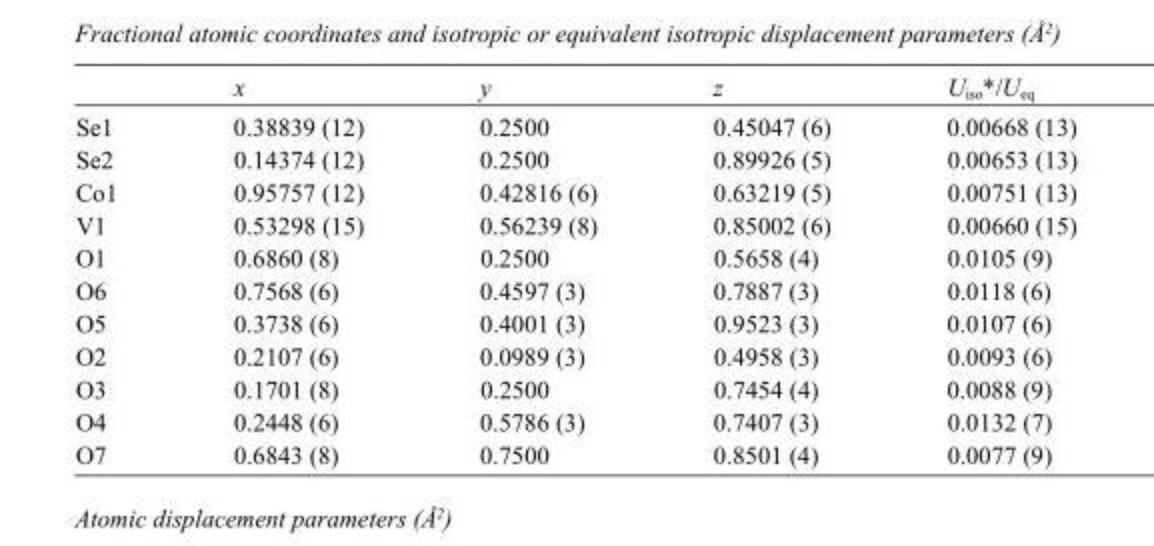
<table><thead><tr><td></td><td>x</td><td>y</td><td>z</td><td>U<sub>iso</sub>*/U<sub>eq</sub></td></tr></thead><tbody><tr><td>Se1</td><td>0.38839 (12)</td><td>0.2500</td><td>0.45047 (6)</td><td>0.00668 (13)</td></tr><tr><td>Se2</td><td>0.14374 (12)</td><td>0.2500</td><td>0.89926 (5)</td><td>0.00653 (13)</td></tr><tr><td>Co1</td><td>0.95757 (12)</td><td>0.42816 (6)</td><td>0.63219 (5)</td><td>0.00751 (13)</td></tr><tr><td>V1</td><td>0.53298 (15)</td><td>0.56239 (8)</td><td>0.85002 (6)</td><td>0.00660 (15)</td></tr><tr><td>O1</td><td>0.6860 (8)</td><td>0.2500</td><td>0.5658 (4)</td><td>0.0105 (9)</td></tr><tr><td>O6</td><td>0.7568 (6)</td><td>0.4597 (3)</td><td>0.7887 (3)</td><td>0.0118 (6)</td></tr><tr><td>O5</td><td>0.3738 (6)</td><td>0.4001 (3)</td><td>0.9523 (3)</td><td>0.0107 (6)</td></tr><tr><td>O2</td><td>0.2107 (6)</td><td>0.0989 (3)</td><td>0.4958 (3)</td><td>0.0093 (6)</td></tr><tr><td>O3</td><td>0.1701 (8)</td><td>0.2500</td><td>0.7454 (4)</td><td>0.0088 (9)</td></tr><tr><td>O4</td><td>0.2448 (6)</td><td>0.5786 (3)</td><td>0.7407 (3)</td><td>0.0132 (7)</td></tr><tr><td>O7</td><td>0.6843 (8)</td><td>0.7500</td><td>0.8501 (4)</td><td>0.0077 (9)</td></tr></tbody></table>